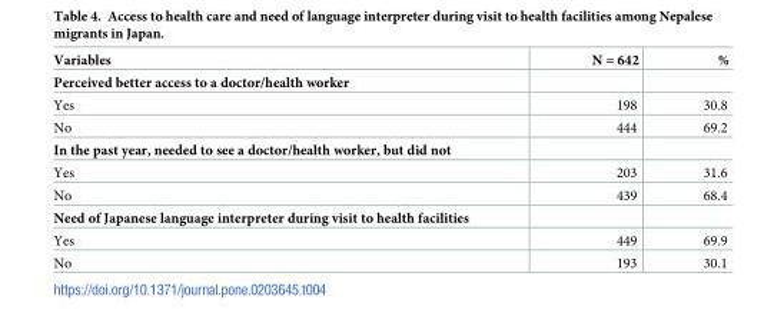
<table><thead><tr><td>Variables</td><td>N = 642</td><td>%</td></tr></thead><tbody><tr><td colspan="3">Perceived better access to a doctor/health worker</td></tr><tr><td>Yes</td><td>198</td><td>30.8</td></tr><tr><td>No</td><td>444</td><td>69.2</td></tr><tr><td colspan="3">In the past year, needed to see a doctor/health worker, but did not</td></tr><tr><td>Yes</td><td>203</td><td>31.6</td></tr><tr><td>No</td><td>439</td><td>68.4</td></tr><tr><td colspan="3">Need of Japanese language interpreter during visit to health facilities</td></tr><tr><td>Yes</td><td>449</td><td>69.9</td></tr><tr><td>No</td><td>193</td><td>30.1</td></tr></tbody></table>